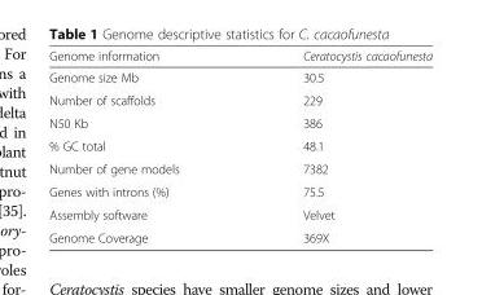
<table><thead><tr><td>Genome information</td><td>Ceratocystis cacaofunesta</td></tr></thead><tbody><tr><td>Genome size Mb</td><td>30.5</td></tr><tr><td>Number of scaffolds</td><td>229</td></tr><tr><td>N50 Kb</td><td>386</td></tr><tr><td>% GC total</td><td>48.1</td></tr><tr><td>Number of gene models</td><td>7382</td></tr><tr><td>Genes with introns (%)</td><td>75.5</td></tr><tr><td>Assembly software</td><td>Velvet</td></tr><tr><td>Genome Coverage</td><td>369X</td></tr></tbody></table>